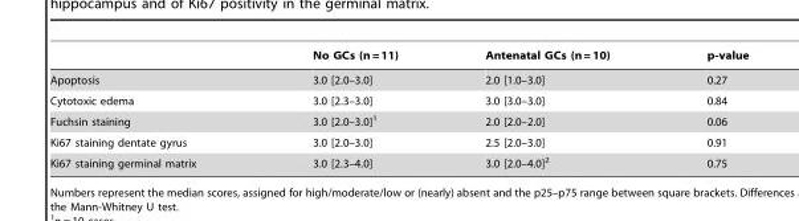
<table><thead><tr><td></td><td>No GCs (n = 11)</td><td>Antenatal GCs (n = 10)</td><td>p-value</td></tr></thead><tbody><tr><td>Apoptosis</td><td>3.0 [2.0–3.0]</td><td>2.0 [1.0–3.0]</td><td>0.27</td></tr><tr><td>Cytotoxic edema</td><td>3.0 [2.3–3.0]</td><td>3.0 [3.0–3.0]</td><td>0.84</td></tr><tr><td>Fuchsin staining</td><td>3.0 [2.0–3.0]<sup>1</sup></td><td>2.0 [2.0–2.0]</td><td>0.06</td></tr><tr><td>Ki67 staining dentate gyrus</td><td>3.0 [2.0–3.0]</td><td>2.5 [2.0–3.0]</td><td>0.91</td></tr><tr><td>Ki67 staining germinal matrix</td><td>3.0 [2.3–4.0]</td><td>3.0 [2.0–4.0]<sup>2</sup></td><td>0.75</td></tr></tbody></table>